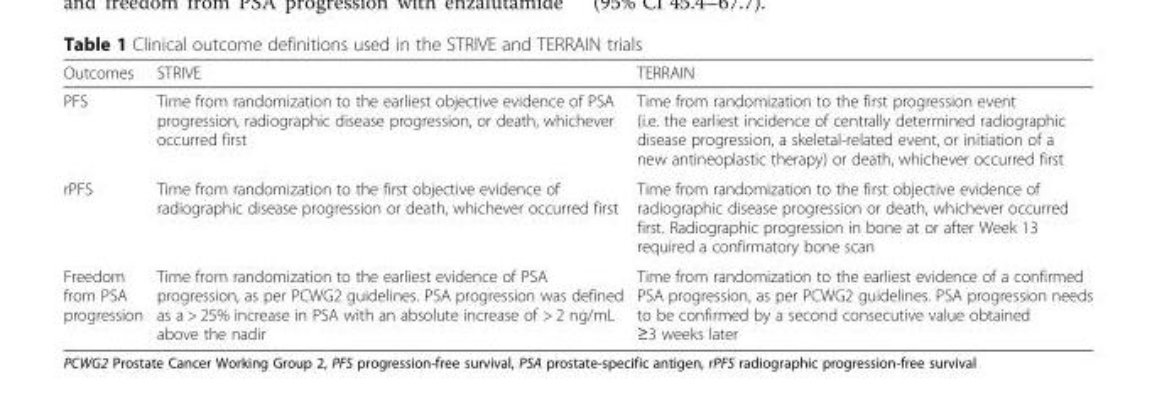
<table><thead><tr><td>Outcomes</td><td>STRIVE</td><td>TERRAIN</td></tr></thead><tbody><tr><td>PFS</td><td>Time from randomization to the earliest objective evidence of PSA progression, radiographic disease progression, or death, whichever occurred first</td><td>Time from randomization to the first progression event (i.e. the earliest incidence of centrally determined radiographic disease progression, a skeletal-related event, or initiation of a new antineoplastic therapy) or death, whichever occurred first</td></tr><tr><td>rPFS</td><td>Time from randomization to the first objective evidence of radiographic disease progression or death, whichever occurred first</td><td>Time from randomization to the first objective evidence of radiographic disease progression or death, whichever occurred first. Radiographic progression in bone at or after Week 13 required a confirmatory bone scan</td></tr><tr><td>Freedom from PSA progression</td><td>Time from randomization to the earliest evidence of PSA progression, as per PCWG2 guidelines. PSA progression was defined as a &gt; 25% increase in PSA with an absolute increase of &gt; 2 ng/mL above the nadir</td><td>Time from randomization to the earliest evidence of a confirmed PSA progression, as per PCWG2 guidelines. PSA progression needs to be confirmed by a second consecutive value obtained ≥3 weeks later</td></tr></tbody></table>